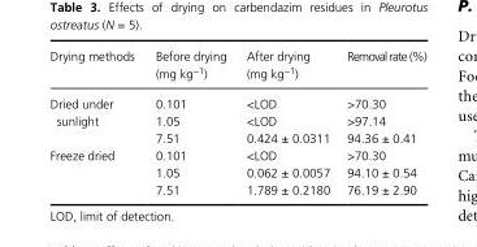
<table><thead><tr><td>Drying methods</td><td>Before drying (mg kg<sup>−1</sup>)</td><td>After drying (mg kg<sup>−1</sup>)</td><td>Removal rate (%)</td></tr></thead><tbody><tr><td rowspan="3">Dried under sunlight</td><td>0.101</td><td>&lt;LOD</td><td>&gt;70.30</td></tr><tr><td>1.05</td><td>&lt;LOD</td><td>&gt;97.14</td></tr><tr><td>7.51</td><td>0.424 ± 0.0311</td><td>94.36 ± 0.41</td></tr><tr><td rowspan="3">Freeze dried</td><td>0.101</td><td>&lt;LOD</td><td>&gt;70.30</td></tr><tr><td>1.05</td><td>0.062 ± 0.0057</td><td>94.10 ± 0.54</td></tr><tr><td>7.51</td><td>1.789 ± 0.2180</td><td>76.19 ± 2.90</td></tr></tbody></table>